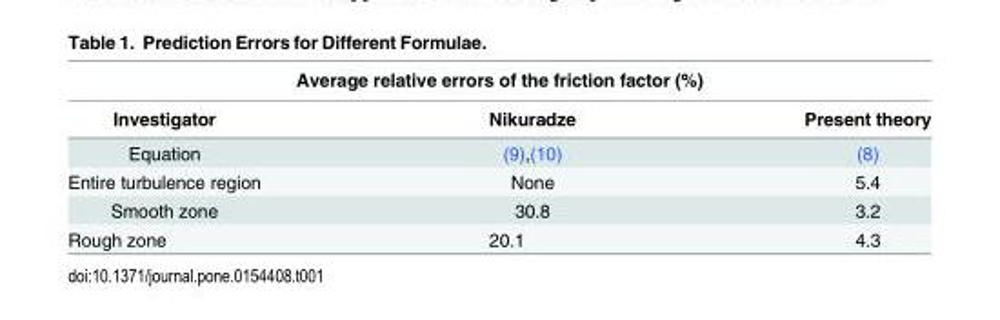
<table><thead><tr><td colspan="3">Average relative errors of the friction factor (%)</td></tr><tr><td>Investigator</td><td>Nikuradze</td><td>Present theory</td></tr></thead><tbody><tr><td>Equation</td><td>(9),(10)</td><td>(8)</td></tr><tr><td>Entire turbulence region</td><td>None</td><td>5.4</td></tr><tr><td>Smooth zone</td><td>30.8</td><td>3.2</td></tr><tr><td>Rough zone</td><td>20.1</td><td>4.3</td></tr></tbody></table>